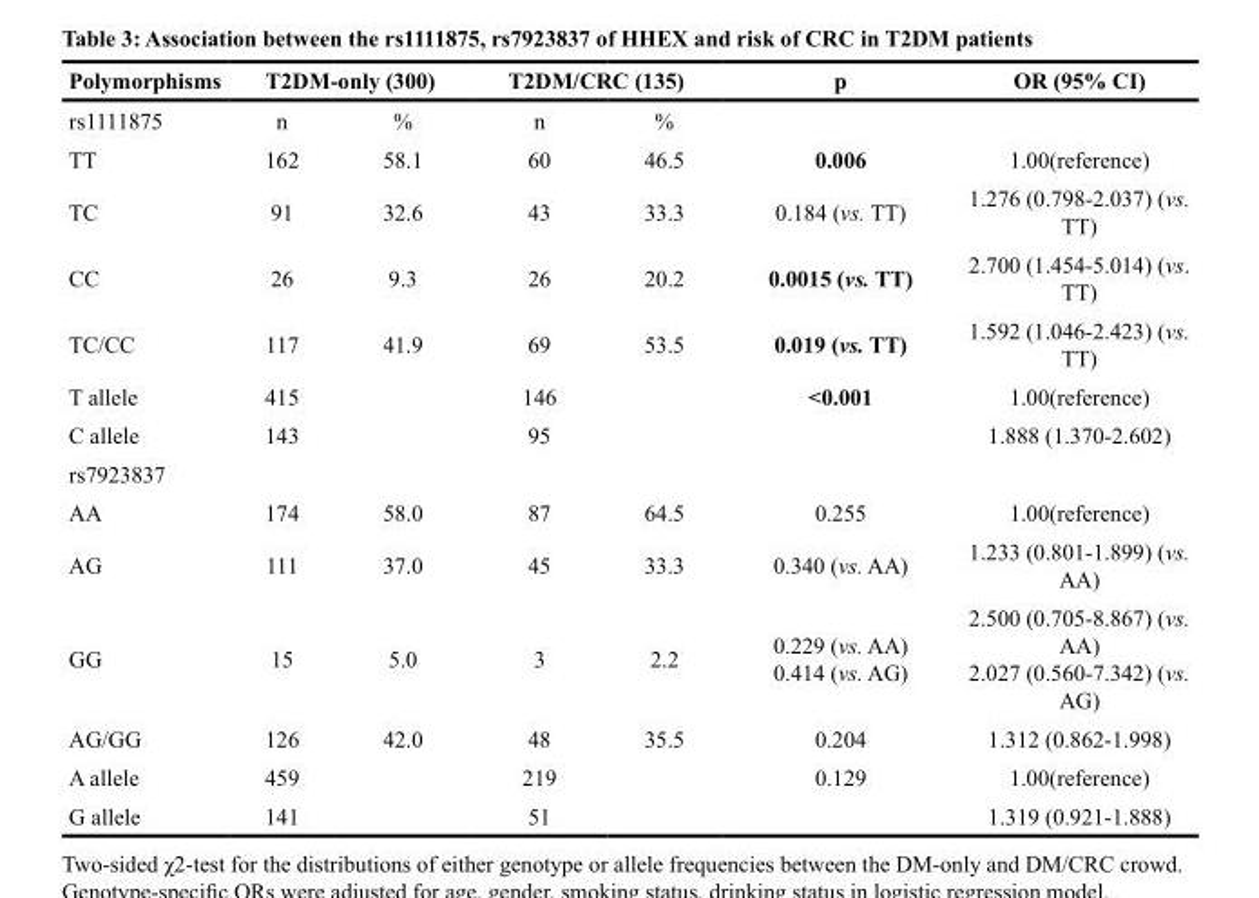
<table><thead><tr><td rowspan="2">Polymorphisms rs1111875</td><td colspan="2">T2DM-only (300)</td><td colspan="2">T2DM/CRC (135)</td><td rowspan="2">p</td><td rowspan="2">OR (95% CI)</td></tr><tr><td>n</td><td>%</td><td>n</td><td>%</td></tr></thead><tbody><tr><td>TT</td><td>162</td><td>58.1</td><td>60</td><td>46.5</td><td>0.006</td><td>1.00(reference)</td></tr><tr><td>TC</td><td>91</td><td>32.6</td><td>43</td><td>33.3</td><td>0.184 (vs. TT)</td><td>1.276 (0.798-2.037) (vs. TT)</td></tr><tr><td>CC</td><td>26</td><td>9.3</td><td>26</td><td>20.2</td><td>0.0015 (vs. TT)</td><td>2.700 (1.454-5.014) (vs. TT)</td></tr><tr><td>TC/CC</td><td>117</td><td>41.9</td><td>69</td><td>53.5</td><td>0.019 (vs. TT)</td><td>1.592 (1.046-2.423) (vs. TT)</td></tr><tr><td>T allele</td><td>415</td><td></td><td>146</td><td></td><td>&lt;0.001</td><td>1.00(reference)</td></tr><tr><td>C allele</td><td>143</td><td></td><td>95</td><td></td><td></td><td>1.888 (1.370-2.602)</td></tr><tr><td colspan="7">rs7923837</td></tr><tr><td>AA</td><td>174</td><td>58.0</td><td>87</td><td>64.5</td><td>0.255</td><td>1.00(reference)</td></tr><tr><td>AG</td><td>111</td><td>37.0</td><td>45</td><td>33.3</td><td>0.340 (vs. AA)</td><td>1.233 (0.801-1.899) (vs. AA)</td></tr><tr><td>GG</td><td>15</td><td>5.0</td><td>3</td><td>2.2</td><td>0.229 (vs. AA) 0.414 (vs. AG)</td><td>2.500 (0.705-8.867) (vs. AA) 2.027 (0.560-7.342) (vs. AG)</td></tr><tr><td>AG/GG</td><td>126</td><td>42.0</td><td>48</td><td>35.5</td><td>0.204</td><td>1.312 (0.862-1.998)</td></tr><tr><td>A allele</td><td>459</td><td></td><td>219</td><td></td><td>0.129</td><td>1.00(reference)</td></tr><tr><td>G allele</td><td>141</td><td></td><td>51</td><td></td><td></td><td>1.319 (0.921-1.888)</td></tr></tbody></table>